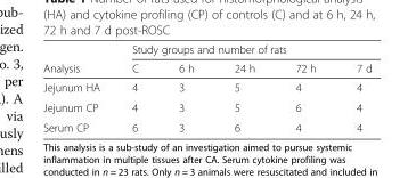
<table><thead><tr><td rowspan="2">Analysis</td><td colspan="5">Study groups and number of rats</td></tr><tr><td>C</td><td>6 h</td><td>24 h</td><td>72 h</td><td>7 d</td></tr></thead><tbody><tr><td>Jejunum HA</td><td>4</td><td>3</td><td>5</td><td>4</td><td>4</td></tr><tr><td>Jejunum CP</td><td>4</td><td>3</td><td>5</td><td>6</td><td>4</td></tr><tr><td>Serum CP</td><td>6</td><td>3</td><td>6</td><td>4</td><td>4</td></tr></tbody></table>